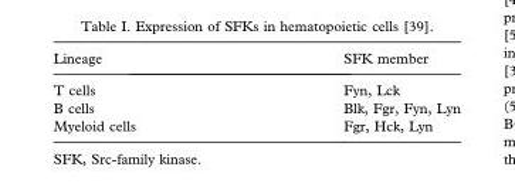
<table><thead><tr><td>Lineage</td><td>SFK member</td></tr></thead><tbody><tr><td>T cells</td><td>Fyn, Lck</td></tr><tr><td>B cells</td><td>Blk, Fgr, Fyn, Lyn</td></tr><tr><td>Myeloid cells</td><td>Fgr, Hck, Lyn</td></tr></tbody></table>